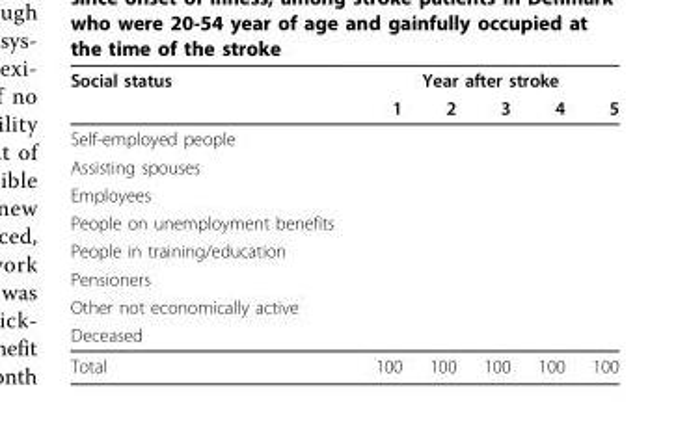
<table><thead><tr><td rowspan="2">Social status</td><td colspan="5">Year after stroke</td></tr><tr><td>1</td><td>2</td><td>3</td><td>4</td><td>5</td></tr></thead><tbody><tr><td colspan="6">Self-employed people</td></tr><tr><td colspan="6">Assisting spouses</td></tr><tr><td colspan="6">Employees</td></tr><tr><td colspan="6">People on unemployment benefits</td></tr><tr><td colspan="6">People in training/education</td></tr><tr><td colspan="6">Pensioners</td></tr><tr><td colspan="6">Other not economically active</td></tr><tr><td colspan="6">Deceased</td></tr><tr><td>Total</td><td>100</td><td>100</td><td>100</td><td>100</td><td>100</td></tr></tbody></table>